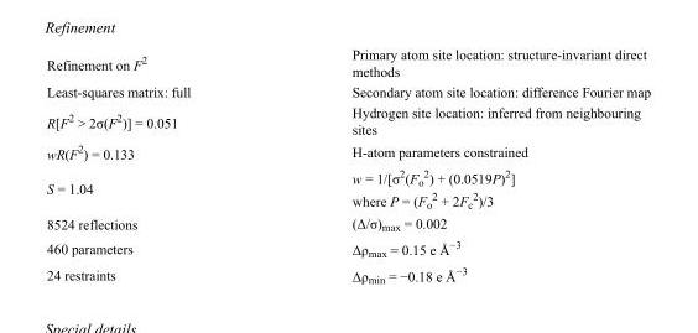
<table><tbody><tr><td>Refinement on F<sup>2</sup></td><td>Primary atom site location: structure-invariant direct methods</td></tr><tr><td>Least-squares matrix: full</td><td>Secondary atom site location: difference Fourier map</td></tr><tr><td>R[F<sup>2</sup> &gt; 2σ(F<sup>2</sup>)] = 0.051</td><td>Hydrogen site location: inferred from neighbouring sites</td></tr><tr><td>wR(F<sup>2</sup>) = 0.133</td><td>H-atom parameters constrained</td></tr><tr><td>S = 1.04</td><td>w = 1/[σ<sup>2</sup>(F<sub>o</sub> <sup>2</sup>) + (0.0519P)<sup>2</sup>] where P = (F<sub>o</sub> <sup>2</sup> + 2F<sub>c</sub> <sup>2</sup>)/3</td></tr><tr><td>8524 reflections</td><td>(Δ/σ)<sub>max</sub> = 0.002</td></tr><tr><td>460 parameters</td><td>Δρ<sub>max</sub> = 0.15 e Å<sup>−3</sup></td></tr><tr><td>24 restraints</td><td>Δρ<sub>min</sub> = −0.18 e Å<sup>−3</sup></td></tr></tbody></table>